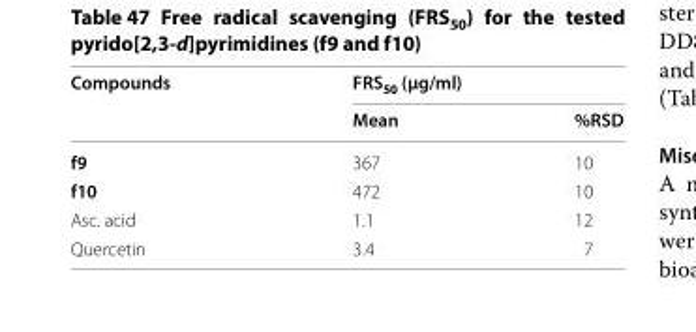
<table><thead><tr><td rowspan="2">Compounds</td><td colspan="2">FRS<sub>50</sub> (µg/ml)</td></tr><tr><td>Mean</td><td>%RSD</td></tr></thead><tbody><tr><td>f9</td><td>367</td><td>10</td></tr><tr><td>f10</td><td>472</td><td>10</td></tr><tr><td>Asc. acid</td><td>1.1</td><td>12</td></tr><tr><td>Quercetin</td><td>3.4</td><td>7</td></tr></tbody></table>